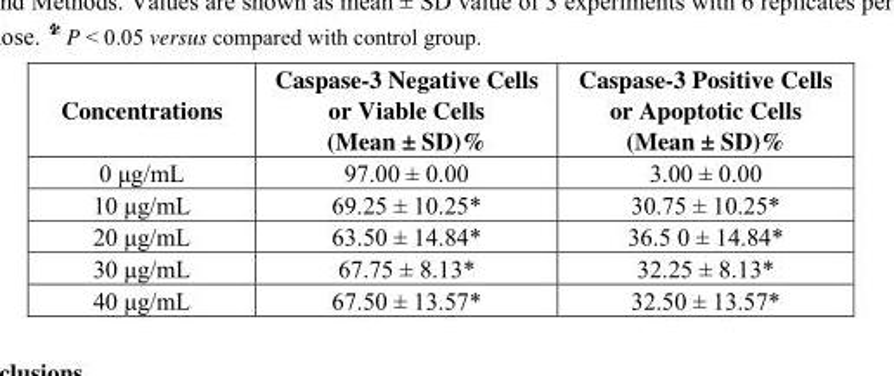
<table><thead><tr><td>Concentrations</td><td>Caspase-3 Negative Cells or Viable Cells (Mean ± SD)%</td><td>Caspase-3 Positive Cells or Apoptotic Cells (Mean ± SD)%</td></tr></thead><tbody><tr><td>0 μg/mL</td><td>97.00 ± 0.00</td><td>3.00 ± 0.00</td></tr><tr><td>10 μg/mL</td><td>69.25 ± 10.25*</td><td>30.75 ± 10.25*</td></tr><tr><td>20 μg/mL</td><td>63.50 ± 14.84*</td><td>36.5 0 ± 14.84*</td></tr><tr><td>30 μg/mL</td><td>67.75 ± 8.13*</td><td>32.25 ± 8.13*</td></tr><tr><td>40 μg/mL</td><td>67.50 ± 13.57*</td><td>32.50 ± 13.57*</td></tr></tbody></table>